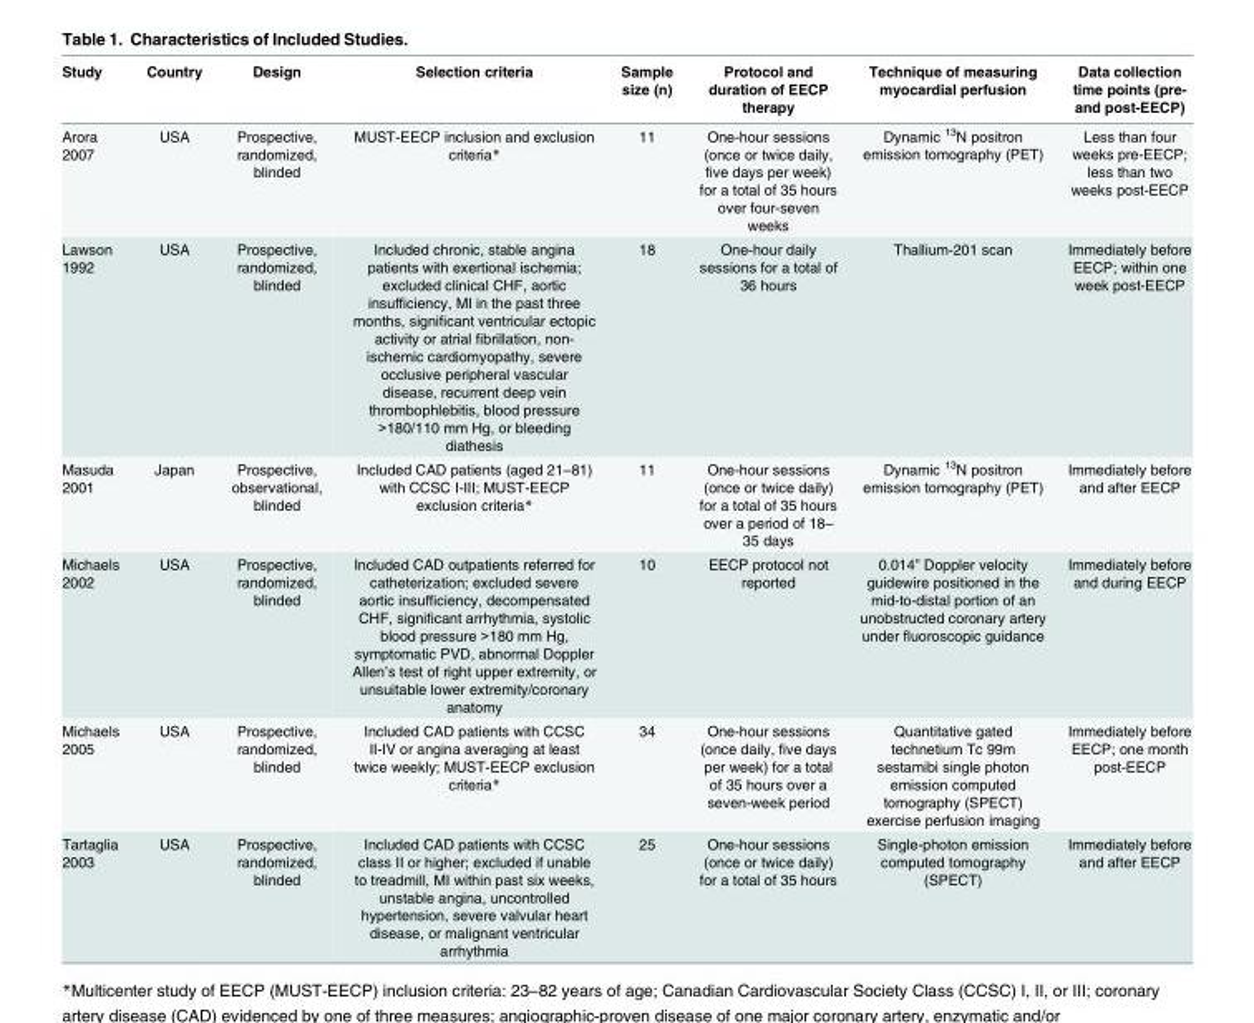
<table><thead><tr><td>Study</td><td>Country</td><td>Design</td><td>Selection criteria</td><td>Sample size (n)</td><td>Protocol and duration of EECP therapy</td><td>Technique of measuring myocardial perfusion</td><td>Data collection time points (pre- and post-EECP)</td></tr></thead><tbody><tr><td>Arora 2007</td><td>USA</td><td>Prospective, randomized, blinded</td><td>MUST-EECP inclusion and exclusion criteria*</td><td>11</td><td>One-hour sessions (once or twice daily, five days per week) for a total of 35 hours over four-seven weeks</td><td>Dynamic <sup>13</sup>N positron emission tomography (PET)</td><td>Less than four weeks pre-EECP; less than two weeks post-EECP</td></tr><tr><td>Lawson 1992</td><td>USA</td><td>Prospective, randomized, blinded</td><td>Included chronic, stable angina patients with exertional ischemia; excluded clinical CHF, aortic insufficiency, MI in the past three months, significant ventricular ectopic activity or atrial fibrillation, non- ischemic cardiomyopathy, severe occlusive peripheral vascular disease, recurrent deep vein thrombophlebitis, blood pressure &gt;180/110 mm Hg, or bleeding diathesis</td><td>18</td><td>One-hour daily sessions for a total of 36 hours</td><td>Thallium-201 scan</td><td>Immediately before EECP; within one week post-EECP</td></tr><tr><td>Masuda 2001</td><td>Japan</td><td>Prospective, observational, blinded</td><td>Included CAD patients (aged 21–81) with CCSC I-III; MUST-EECP exclusion criteria*</td><td>11</td><td>One-hour sessions (once or twice daily) for a total of 35 hours over a period of 18– 35 days</td><td>Dynamic <sup>13</sup>N positron emission tomography (PET)</td><td>Immediately before and after EECP</td></tr><tr><td>Michaels 2002</td><td>USA</td><td>Prospective, randomized, blinded</td><td>Included CAD outpatients referred for catheterization; excluded severe aortic insufficiency, decompensated CHF, significant arrhythmia, systolic blood pressure &gt;180 mm Hg, symptomatic PVD, abnormal Doppler Allen’s test of right upper extremity, or unsuitable lower extremity/coronary anatomy</td><td>10</td><td>EECP protocol not reported</td><td>0.014” Doppler velocity guidewire positioned in the mid-to-distal portion of an unobstructed coronary artery under fluoroscopic guidance</td><td>Immediately before and during EECP</td></tr><tr><td>Michaels 2005</td><td>USA</td><td>Prospective, randomized, blinded</td><td>Included CAD patients with CCSC II-IV or angina averaging at least twice weekly; MUST-EECP exclusion criteria*</td><td>34</td><td>One-hour sessions (once daily, five days per week) for a total of 35 hours over a seven-week period</td><td>Quantitative gated technetium Tc 99m sestamibi single photon emission computed tomography (SPECT) exercise perfusion imaging</td><td>Immediately before EECP; one month post-EECP</td></tr><tr><td>Tartaglia 2003</td><td>USA</td><td>Prospective, randomized, blinded</td><td>Included CAD patients with CCSC class II or higher; excluded if unable to treadmill, MI within past six weeks, unstable angina, uncontrolled hypertension, severe valvular heart disease, or malignant ventricular arrhythmia</td><td>25</td><td>One-hour sessions (once or twice daily) for a total of 35 hours</td><td>Single-photon emission computed tomography (SPECT)</td><td>Immediately before and after EECP</td></tr></tbody></table>